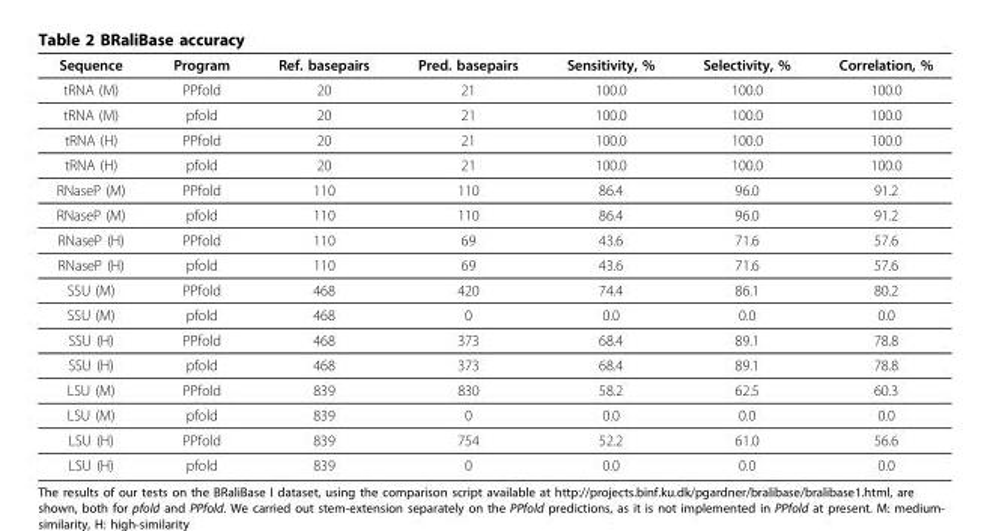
<table><thead><tr><td>Sequence</td><td>Program</td><td>Ref. basepairs</td><td>Pred. basepairs</td><td>Sensitivity, %</td><td>Selectivity, %</td><td>Correlation, %</td></tr></thead><tbody><tr><td>tRNA (M)</td><td>PPfold</td><td>20</td><td>21</td><td>100.0</td><td>100.0</td><td>100.0</td></tr><tr><td>tRNA (M)</td><td>pfold</td><td>20</td><td>21</td><td>100.0</td><td>100.0</td><td>100.0</td></tr><tr><td>tRNA (H)</td><td>PPfold</td><td>20</td><td>21</td><td>100.0</td><td>100.0</td><td>100.0</td></tr><tr><td>tRNA (H)</td><td>pfold</td><td>20</td><td>21</td><td>100.0</td><td>100.0</td><td>100.0</td></tr><tr><td>RNaseP (M)</td><td>PPfold</td><td>110</td><td>110</td><td>86.4</td><td>96.0</td><td>91.2</td></tr><tr><td>RNaseP (M)</td><td>pfold</td><td>110</td><td>110</td><td>86.4</td><td>96.0</td><td>91.2</td></tr><tr><td>RNaseP (H)</td><td>PPfold</td><td>110</td><td>69</td><td>43.6</td><td>71.6</td><td>57.6</td></tr><tr><td>RNaseP (H)</td><td>pfold</td><td>110</td><td>69</td><td>43.6</td><td>71.6</td><td>57.6</td></tr><tr><td>SSU (M)</td><td>PPfold</td><td>468</td><td>420</td><td>74.4</td><td>86.1</td><td>80.2</td></tr><tr><td>SSU (M)</td><td>pfold</td><td>468</td><td>0</td><td>0.0</td><td>0.0</td><td>0.0</td></tr><tr><td>SSU (H)</td><td>PPfold</td><td>468</td><td>373</td><td>68.4</td><td>89.1</td><td>78.8</td></tr><tr><td>SSU (H)</td><td>pfold</td><td>468</td><td>373</td><td>68.4</td><td>89.1</td><td>78.8</td></tr><tr><td>LSU (M)</td><td>PPfold</td><td>839</td><td>830</td><td>58.2</td><td>62.5</td><td>60.3</td></tr><tr><td>LSU (M)</td><td>pfold</td><td>839</td><td>0</td><td>0.0</td><td>0.0</td><td>0.0</td></tr><tr><td>LSU (H)</td><td>PPfold</td><td>839</td><td>754</td><td>52.2</td><td>61.0</td><td>56.6</td></tr><tr><td>LSU (H)</td><td>pfold</td><td>839</td><td>0</td><td>0.0</td><td>0.0</td><td>0.0</td></tr></tbody></table>